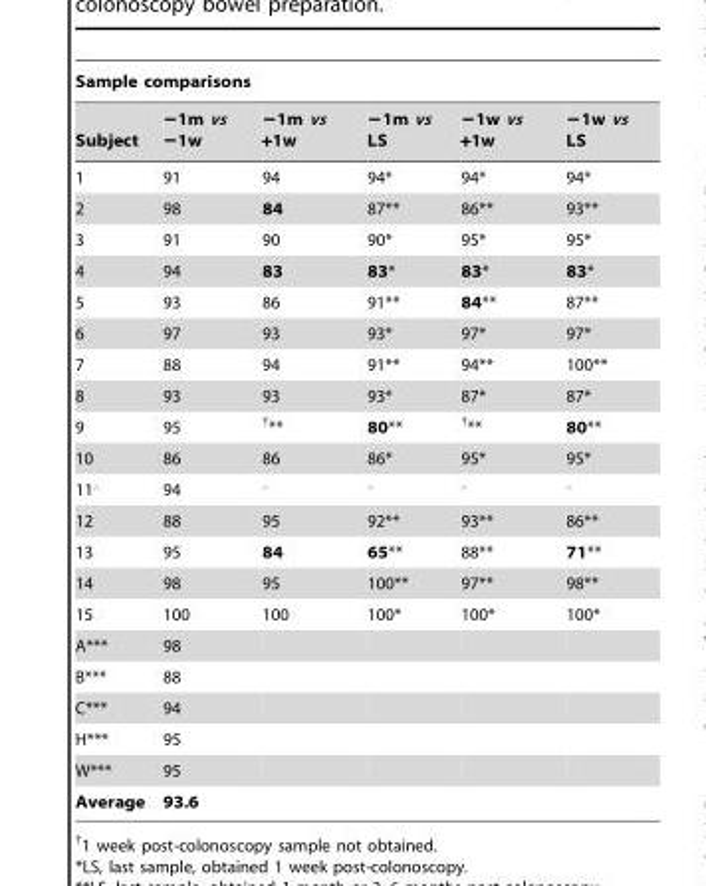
<table><thead><tr><td colspan="6">Sample comparisons</td></tr><tr><td>Subject</td><td>−1m vs −1w</td><td>−1m vs +1w</td><td>−1m vs LS</td><td>−1w vs +1w</td><td>−1w vs LS</td></tr></thead><tbody><tr><td>1</td><td>91</td><td>94</td><td>94*</td><td>94*</td><td>94*</td></tr><tr><td>2</td><td>98</td><td>84</td><td>87**</td><td>86**</td><td>93**</td></tr><tr><td>3</td><td>91</td><td>90</td><td>90*</td><td>95*</td><td>95*</td></tr><tr><td>4</td><td>94</td><td>83</td><td>83*</td><td>83*</td><td>83*</td></tr><tr><td>5</td><td>93</td><td>86</td><td>91**</td><td>84**</td><td>87**</td></tr><tr><td>6</td><td>97</td><td>93</td><td>93*</td><td>97*</td><td>97*</td></tr><tr><td>7</td><td>88</td><td>94</td><td>91**</td><td>94**</td><td>100**</td></tr><tr><td>8</td><td>93</td><td>93</td><td>93*</td><td>87*</td><td>87*</td></tr><tr><td>9</td><td>95</td><td>†**</td><td>80**</td><td>†**</td><td>80**</td></tr><tr><td>10</td><td>86</td><td>86</td><td>86*</td><td>95*</td><td>95*</td></tr><tr><td>11‘</td><td>94</td><td>‘</td><td>‘</td><td>‘</td><td>‘</td></tr><tr><td>12</td><td>88</td><td>95</td><td>92**</td><td>93**</td><td>86**</td></tr><tr><td>13</td><td>95</td><td>84</td><td>65**</td><td>88**</td><td>71**</td></tr><tr><td>14</td><td>98</td><td>95</td><td>100**</td><td>97**</td><td>98**</td></tr><tr><td>15</td><td>100</td><td>100</td><td>100*</td><td>100*</td><td>100*</td></tr><tr><td>A***</td><td>98</td><td></td><td></td><td></td><td></td></tr><tr><td>B***</td><td>88</td><td></td><td></td><td></td><td></td></tr><tr><td>C***</td><td>94</td><td></td><td></td><td></td><td></td></tr><tr><td>H***</td><td>95</td><td></td><td></td><td></td><td></td></tr><tr><td>W***</td><td>95</td><td></td><td></td><td></td><td></td></tr><tr><td>Average</td><td>93.6</td><td></td><td></td><td></td><td></td></tr></tbody></table>